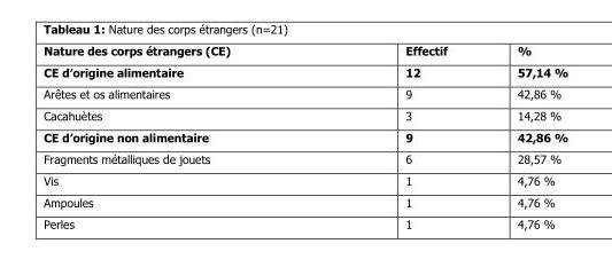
<table><thead><tr><td>Nature des corps étrangers (CE)</td><td>Effectif</td><td>%</td></tr></thead><tbody><tr><td>CE d’origine alimentaire</td><td>12</td><td>57,14 %</td></tr><tr><td>Arêtes et os alimentaires</td><td>9</td><td>42,86 %</td></tr><tr><td>Cacahuètes</td><td>3</td><td>14,28 %</td></tr><tr><td>CE d’origine non alimentaire</td><td>9</td><td>42,86 %</td></tr><tr><td>Fragments métalliques de jouets</td><td>6</td><td>28,57 %</td></tr><tr><td>Vis</td><td>1</td><td>4,76 %</td></tr><tr><td>Ampoules</td><td>1</td><td>4,76 %</td></tr><tr><td>Perles</td><td>1</td><td>4,76 %</td></tr></tbody></table>